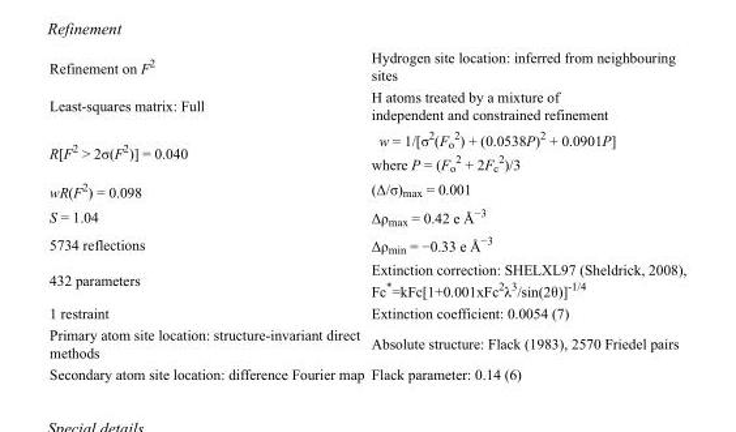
<table><tbody><tr><td>Refinement on F<sup>2</sup></td><td>Hydrogen site location: inferred from neighbouring sites</td></tr><tr><td>Least-squares matrix: Full</td><td>H atoms treated by a mixture of independent and constrained refinement</td></tr><tr><td>R[F<sup>2</sup> &gt; 2σ(F<sup>2</sup>)] = 0.040</td><td>w = 1/[σ<sup>2</sup>(F<sub>o</sub> <sup>2</sup>) + (0.0538P)<sup>2</sup> + 0.0901P] where P = (F<sub>o</sub> <sup>2</sup> + 2F<sub>c</sub> <sup>2</sup>)/3</td></tr><tr><td>wR(F<sup>2</sup>) = 0.098</td><td>(Δ/σ)<sub>max</sub> = 0.001</td></tr><tr><td>S = 1.04</td><td>Δρ<sub>max</sub> = 0.42 e Å<sup>−3</sup></td></tr><tr><td>5734 reflections</td><td>Δρ<sub>min</sub> = −0.33 e Å<sup>−3</sup></td></tr><tr><td>432 parameters</td><td>Extinction correction: SHELXL97 (Sheldrick, 2008), Fc*=kFc[1+0.001xFc<sup>2</sup>λ<sup>3</sup>/sin(2θ)]<sup>-1/4</sup></td></tr><tr><td>1 restraint</td><td>Extinction coefficient: 0.0054 (7)</td></tr><tr><td>Primary atom site location: structure-invariant direct methods</td><td>Absolute structure: Flack (1983), 2570 Friedel pairs</td></tr><tr><td>Secondary atom site location: difference Fourier map</td><td>Flack parameter: 0.14 (6)</td></tr></tbody></table>